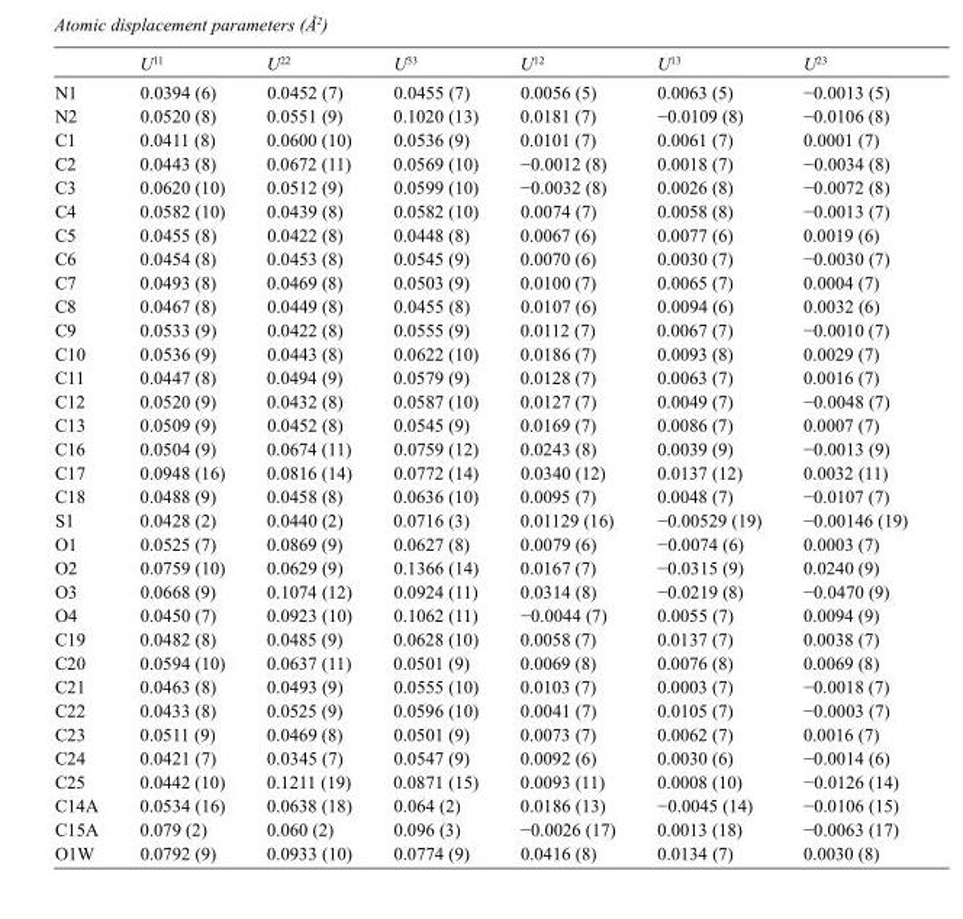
<table><thead><tr><td></td><td>U<sup>11</sup></td><td>U<sup>22</sup></td><td>U<sup>33</sup></td><td>U<sup>12</sup></td><td>U<sup>13</sup></td><td>U<sup>23</sup></td></tr></thead><tbody><tr><td>N1</td><td>0.0394 (6)</td><td>0.0452 (7)</td><td>0.0455 (7)</td><td>0.0056 (5)</td><td>0.0063 (5)</td><td>−0.0013 (5)</td></tr><tr><td>N2</td><td>0.0520 (8)</td><td>0.0551 (9)</td><td>0.1020 (13)</td><td>0.0181 (7)</td><td>−0.0109 (8)</td><td>−0.0106 (8)</td></tr><tr><td>C1</td><td>0.0411 (8)</td><td>0.0600 (10)</td><td>0.0536 (9)</td><td>0.0101 (7)</td><td>0.0061 (7)</td><td>0.0001 (7)</td></tr><tr><td>C2</td><td>0.0443 (8)</td><td>0.0672 (11)</td><td>0.0569 (10)</td><td>−0.0012 (8)</td><td>0.0018 (7)</td><td>−0.0034 (8)</td></tr><tr><td>C3</td><td>0.0620 (10)</td><td>0.0512 (9)</td><td>0.0599 (10)</td><td>−0.0032 (8)</td><td>0.0026 (8)</td><td>−0.0072 (8)</td></tr><tr><td>C4</td><td>0.0582 (10)</td><td>0.0439 (8)</td><td>0.0582 (10)</td><td>0.0074 (7)</td><td>0.0058 (8)</td><td>−0.0013 (7)</td></tr><tr><td>C5</td><td>0.0455 (8)</td><td>0.0422 (8)</td><td>0.0448 (8)</td><td>0.0067 (6)</td><td>0.0077 (6)</td><td>0.0019 (6)</td></tr><tr><td>C6</td><td>0.0454 (8)</td><td>0.0453 (8)</td><td>0.0545 (9)</td><td>0.0070 (6)</td><td>0.0030 (7)</td><td>−0.0030 (7)</td></tr><tr><td>C7</td><td>0.0493 (8)</td><td>0.0469 (8)</td><td>0.0503 (9)</td><td>0.0100 (7)</td><td>0.0065 (7)</td><td>0.0004 (7)</td></tr><tr><td>C8</td><td>0.0467 (8)</td><td>0.0449 (8)</td><td>0.0455 (8)</td><td>0.0107 (6)</td><td>0.0094 (6)</td><td>0.0032 (6)</td></tr><tr><td>C9</td><td>0.0533 (9)</td><td>0.0422 (8)</td><td>0.0555 (9)</td><td>0.0112 (7)</td><td>0.0067 (7)</td><td>−0.0010 (7)</td></tr><tr><td>C10</td><td>0.0536 (9)</td><td>0.0443 (8)</td><td>0.0622 (10)</td><td>0.0186 (7)</td><td>0.0093 (8)</td><td>0.0029 (7)</td></tr><tr><td>C11</td><td>0.0447 (8)</td><td>0.0494 (9)</td><td>0.0579 (9)</td><td>0.0128 (7)</td><td>0.0063 (7)</td><td>0.0016 (7)</td></tr><tr><td>C12</td><td>0.0520 (9)</td><td>0.0432 (8)</td><td>0.0587 (10)</td><td>0.0127 (7)</td><td>0.0049 (7)</td><td>−0.0048 (7)</td></tr><tr><td>C13</td><td>0.0509 (9)</td><td>0.0452 (8)</td><td>0.0545 (9)</td><td>0.0169 (7)</td><td>0.0086 (7)</td><td>0.0007 (7)</td></tr><tr><td>C16</td><td>0.0504 (9)</td><td>0.0674 (11)</td><td>0.0759 (12)</td><td>0.0243 (8)</td><td>0.0039 (9)</td><td>−0.0013 (9)</td></tr><tr><td>C17</td><td>0.0948 (16)</td><td>0.0816 (14)</td><td>0.0772 (14)</td><td>0.0340 (12)</td><td>0.0137 (12)</td><td>0.0032 (11)</td></tr><tr><td>C18</td><td>0.0488 (9)</td><td>0.0458 (8)</td><td>0.0636 (10)</td><td>0.0095 (7)</td><td>0.0048 (7)</td><td>−0.0107 (7)</td></tr><tr><td>S1</td><td>0.0428 (2)</td><td>0.0440 (2)</td><td>0.0716 (3)</td><td>0.01129 (16)</td><td>−0.00529 (19)</td><td>−0.00146 (19)</td></tr><tr><td>O1</td><td>0.0525 (7)</td><td>0.0869 (9)</td><td>0.0627 (8)</td><td>0.0079 (6)</td><td>−0.0074 (6)</td><td>0.0003 (7)</td></tr><tr><td>O2</td><td>0.0759 (10)</td><td>0.0629 (9)</td><td>0.1366 (14)</td><td>0.0167 (7)</td><td>−0.0315 (9)</td><td>0.0240 (9)</td></tr><tr><td>O3</td><td>0.0668 (9)</td><td>0.1074 (12)</td><td>0.0924 (11)</td><td>0.0314 (8)</td><td>−0.0219 (8)</td><td>−0.0470 (9)</td></tr><tr><td>O4</td><td>0.0450 (7)</td><td>0.0923 (10)</td><td>0.1062 (11)</td><td>−0.0044 (7)</td><td>0.0055 (7)</td><td>0.0094 (9)</td></tr><tr><td>C19</td><td>0.0482 (8)</td><td>0.0485 (9)</td><td>0.0628 (10)</td><td>0.0058 (7)</td><td>0.0137 (7)</td><td>0.0038 (7)</td></tr><tr><td>C20</td><td>0.0594 (10)</td><td>0.0637 (11)</td><td>0.0501 (9)</td><td>0.0069 (8)</td><td>0.0076 (8)</td><td>0.0069 (8)</td></tr><tr><td>C21</td><td>0.0463 (8)</td><td>0.0493 (9)</td><td>0.0555 (10)</td><td>0.0103 (7)</td><td>0.0003 (7)</td><td>−0.0018 (7)</td></tr><tr><td>C22</td><td>0.0433 (8)</td><td>0.0525 (9)</td><td>0.0596 (10)</td><td>0.0041 (7)</td><td>0.0105 (7)</td><td>−0.0003 (7)</td></tr><tr><td>C23</td><td>0.0511 (9)</td><td>0.0469 (8)</td><td>0.0501 (9)</td><td>0.0073 (7)</td><td>0.0062 (7)</td><td>0.0016 (7)</td></tr><tr><td>C24</td><td>0.0421 (7)</td><td>0.0345 (7)</td><td>0.0547 (9)</td><td>0.0092 (6)</td><td>0.0030 (6)</td><td>−0.0014 (6)</td></tr><tr><td>C25</td><td>0.0442 (10)</td><td>0.1211 (19)</td><td>0.0871 (15)</td><td>0.0093 (11)</td><td>0.0008 (10)</td><td>−0.0126 (14)</td></tr><tr><td>C14A</td><td>0.0534 (16)</td><td>0.0638 (18)</td><td>0.064 (2)</td><td>0.0186 (13)</td><td>−0.0045 (14)</td><td>−0.0106 (15)</td></tr><tr><td>C15A</td><td>0.079 (2)</td><td>0.060 (2)</td><td>0.096 (3)</td><td>−0.0026 (17)</td><td>0.0013 (18)</td><td>−0.0063 (17)</td></tr><tr><td>O1W</td><td>0.0792 (9)</td><td>0.0933 (10)</td><td>0.0774 (9)</td><td>0.0416 (8)</td><td>0.0134 (7)</td><td>0.0030 (8)</td></tr></tbody></table>